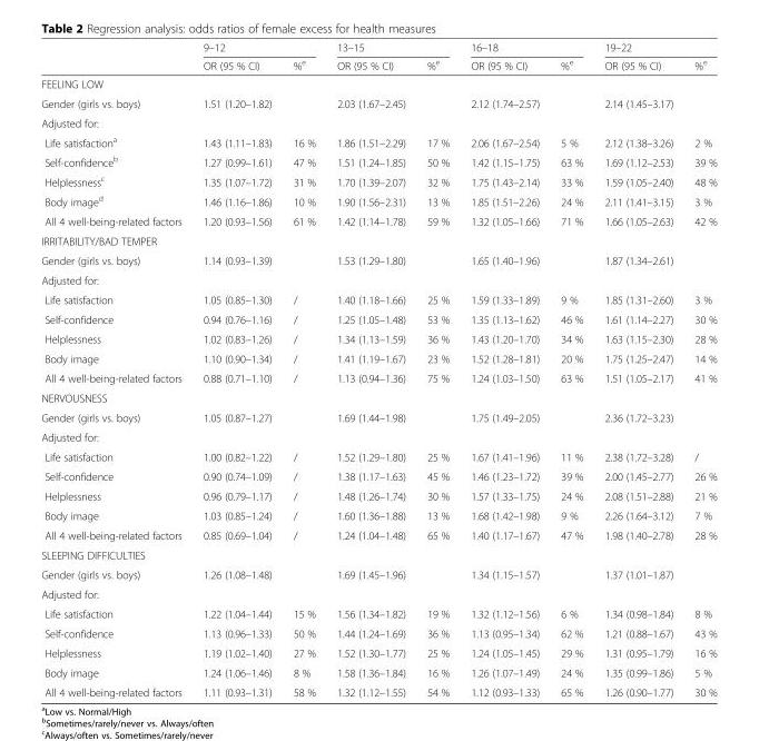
<table><thead><tr><td rowspan="2"></td><td colspan="2">9–12</td><td colspan="2">13–15</td><td colspan="2">16–18</td><td colspan="2">19–22</td></tr><tr><td>OR (95 % CI)</td><td>%<sup>e</sup></td><td>OR (95 % CI)</td><td>%<sup>e</sup></td><td>OR (95 % CI)</td><td>%<sup>e</sup></td><td>OR (95 % CI)</td><td>%<sup>e</sup></td></tr></thead><tbody><tr><td colspan="9">FEELING LOW</td></tr><tr><td>Gender (girls vs. boys)</td><td>1.51 (1.20–1.82)</td><td></td><td>2.03 (1.67–2.45)</td><td></td><td>2.12 (1.74–2.57)</td><td></td><td>2.14 (1.45–3.17)</td><td></td></tr><tr><td colspan="9">Adjusted for:</td></tr><tr><td>Life satisfaction<sup>a</sup></td><td>1.43 (1.11–1.83)</td><td>16 %</td><td>1.86 (1.51–2.29)</td><td>17 %</td><td>2.06 (1.67–2.54)</td><td>5 %</td><td>2.12 (1.38–3.26)</td><td>2 %</td></tr><tr><td>Self-confidence<sup>b</sup></td><td>1.27 (0.99–1.61)</td><td>47 %</td><td>1.51 (1.24–1.85)</td><td>50 %</td><td>1.42 (1.15–1.75)</td><td>63 %</td><td>1.69 (1.12–2.53)</td><td>39 %</td></tr><tr><td>Helplessness<sup>c</sup></td><td>1.35 (1.07–1.72)</td><td>31 %</td><td>1.70 (1.39–2.07)</td><td>32 %</td><td>1.75 (1.43–2.14)</td><td>33 %</td><td>1.59 (1.05–2.40)</td><td>48 %</td></tr><tr><td>Body image<sup>d</sup></td><td>1.46 (1.16–1.86)</td><td>10 %</td><td>1.90 (1.56–2.31)</td><td>13 %</td><td>1.85 (1.51–2.26)</td><td>24 %</td><td>2.11 (1.41–3.15)</td><td>3 %</td></tr><tr><td>All 4 well-being-related factors</td><td>1.20 (0.93–1.56)</td><td>61 %</td><td>1.42 (1.14–1.78)</td><td>59 %</td><td>1.32 (1.05–1.66)</td><td>71 %</td><td>1.66 (1.05–2.63)</td><td>42 %</td></tr><tr><td colspan="9">IRRITABILITY/BAD TEMPER</td></tr><tr><td>Gender (girls vs. boys)</td><td>1.14 (0.93–1.39)</td><td></td><td>1.53 (1.29–1.80)</td><td></td><td>1.65 (1.40–1.96)</td><td></td><td>1.87 (1.34–2.61)</td><td></td></tr><tr><td colspan="9">Adjusted for:</td></tr><tr><td>Life satisfaction</td><td>1.05 (0.85–1.30)</td><td>/</td><td>1.40 (1.18–1.66)</td><td>25 %</td><td>1.59 (1.33–1.89)</td><td>9 %</td><td>1.85 (1.31–2.60)</td><td>3 %</td></tr><tr><td>Self-confidence</td><td>0.94 (0.76–1.16)</td><td>/</td><td>1.25 (1.05–1.48)</td><td>53 %</td><td>1.35 (1.13–1.62)</td><td>46 %</td><td>1.61 (1.14–2.27)</td><td>30 %</td></tr><tr><td>Helplessness</td><td>1.02 (0.83–1.26)</td><td>/</td><td>1.34 (1.13–1.59)</td><td>36 %</td><td>1.43 (1.20–1.70)</td><td>34 %</td><td>1.63 (1.15–2.30)</td><td>28 %</td></tr><tr><td>Body image</td><td>1.10 (0.90–1.34)</td><td>/</td><td>1.41 (1.19–1.67)</td><td>23 %</td><td>1.52 (1.28–1.81)</td><td>20 %</td><td>1.75 (1.25–2.47)</td><td>14 %</td></tr><tr><td>All 4 well-being-related factors</td><td>0.88 (0.71–1.10)</td><td>/</td><td>1.13 (0.94–1.36)</td><td>75 %</td><td>1.24 (1.03–1.50)</td><td>63 %</td><td>1.51 (1.05–2.17)</td><td>41 %</td></tr><tr><td colspan="9">NERVOUSNESS</td></tr><tr><td>Gender (girls vs. boys)</td><td>1.05 (0.87–1.27)</td><td></td><td>1.69 (1.44–1.98)</td><td></td><td>1.75 (1.49–2.05)</td><td></td><td>2.36 (1.72–3.23)</td><td></td></tr><tr><td colspan="9">Adjusted for:</td></tr><tr><td>Life satisfaction</td><td>1.00 (0.82–1.22)</td><td>/</td><td>1.52 (1.29–1.80)</td><td>25 %</td><td>1.67 (1.41–1.96)</td><td>11 %</td><td>2.38 (1.72–3.28)</td><td>/</td></tr><tr><td>Self-confidence</td><td>0.90 (0.74–1.09)</td><td>/</td><td>1.38 (1.17–1.63)</td><td>45 %</td><td>1.46 (1.23–1.72)</td><td>39 %</td><td>2.00 (1.45–2.77)</td><td>26 %</td></tr><tr><td>Helplessness</td><td>0.96 (0.79–1.17)</td><td>/</td><td>1.48 (1.26–1.74)</td><td>30 %</td><td>1.57 (1.33–1.75)</td><td>24 %</td><td>2.08 (1.51–2.88)</td><td>21 %</td></tr><tr><td>Body image</td><td>1.03 (0.85–1.24)</td><td>/</td><td>1.60 (1.36–1.88)</td><td>13 %</td><td>1.68 (1.42–1.98)</td><td>9 %</td><td>2.26 (1.64–3.12)</td><td>7 %</td></tr><tr><td>All 4 well-being-related factors</td><td>0.85 (0.69–1.04)</td><td>/</td><td>1.24 (1.04–1.48)</td><td>65 %</td><td>1.40 (1.17–1.67)</td><td>47 %</td><td>1.98 (1.40–2.78)</td><td>28 %</td></tr><tr><td colspan="9">SLEEPING DIFFICULTIES</td></tr><tr><td>Gender (girls vs. boys)</td><td>1.26 (1.08–1.48)</td><td></td><td>1.69 (1.45–1.96)</td><td></td><td>1.34 (1.15–1.57)</td><td></td><td>1.37 (1.01–1.87)</td><td></td></tr><tr><td colspan="9">Adjusted for:</td></tr><tr><td>Life satisfaction</td><td>1.22 (1.04–1.44)</td><td>15 %</td><td>1.56 (1.34–1.82)</td><td>19 %</td><td>1.32 (1.12–1.56)</td><td>6 %</td><td>1.34 (0.98–1.84)</td><td>8 %</td></tr><tr><td>Self-confidence</td><td>1.13 (0.96–1.33)</td><td>50 %</td><td>1.44 (1.24–1.69)</td><td>36 %</td><td>1.13 (0.95–1.34)</td><td>62 %</td><td>1.21 (0.88–1.67)</td><td>43 %</td></tr><tr><td>Helplessness</td><td>1.19 (1.02–1.40)</td><td>27 %</td><td>1.52 (1.30–1.77)</td><td>25 %</td><td>1.24 (1.05–1.45)</td><td>29 %</td><td>1.31 (0.95–1.79)</td><td>16 %</td></tr><tr><td>Body image</td><td>1.24 (1.06–1.46)</td><td>8 %</td><td>1.58 (1.36–1.84)</td><td>16 %</td><td>1.26 (1.07–1.49)</td><td>24 %</td><td>1.35 (0.99–1.86)</td><td>5 %</td></tr><tr><td>All 4 well-being-related factors</td><td>1.11 (0.93–1.31)</td><td>58 %</td><td>1.32 (1.12–1.55)</td><td>54 %</td><td>1.12 (0.93–1.33)</td><td>65 %</td><td>1.26 (0.90–1.77)</td><td>30 %</td></tr></tbody></table>